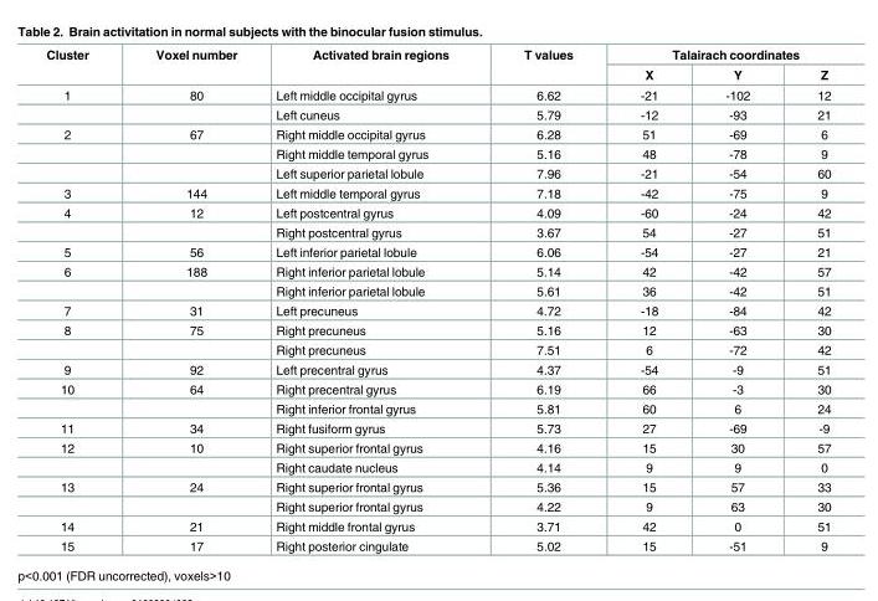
<table><thead><tr><td rowspan="2">Cluster</td><td rowspan="2">Voxel number</td><td rowspan="2">Activated brain regions</td><td rowspan="2">T values</td><td colspan="3">Talairach coordinates</td></tr><tr><td>X</td><td>Y</td><td>Z</td></tr></thead><tbody><tr><td rowspan="2">1</td><td>80</td><td>Left middle occipital gyrus</td><td>6.62</td><td>-21</td><td>-102</td><td>12</td></tr><tr><td></td><td>Left cuneus</td><td>5.79</td><td>-12</td><td>-93</td><td>21</td></tr><tr><td rowspan="3">2</td><td>67</td><td>Right middle occipital gyrus</td><td>6.28</td><td>51</td><td>-69</td><td>6</td></tr><tr><td></td><td>Right middle temporal gyrus</td><td>5.16</td><td>48</td><td>-78</td><td>9</td></tr><tr><td></td><td>Left superior parietal lobule</td><td>7.96</td><td>-21</td><td>-54</td><td>60</td></tr><tr><td>3</td><td>144</td><td>Left middle temporal gyrus</td><td>7.18</td><td>-42</td><td>-75</td><td>9</td></tr><tr><td rowspan="2">4</td><td>12</td><td>Left postcentral gyrus</td><td>4.09</td><td>-60</td><td>-24</td><td>42</td></tr><tr><td></td><td>Right postcentral gyrus</td><td>3.67</td><td>54</td><td>-27</td><td>51</td></tr><tr><td>5</td><td>56</td><td>Left inferior parietal lobule</td><td>6.06</td><td>-54</td><td>-27</td><td>21</td></tr><tr><td rowspan="2">6</td><td>188</td><td>Right inferior parietal lobule</td><td>5.14</td><td>42</td><td>-42</td><td>57</td></tr><tr><td></td><td>Right inferior parietal lobule</td><td>5.61</td><td>36</td><td>-42</td><td>51</td></tr><tr><td>7</td><td>31</td><td>Left precuneus</td><td>4.72</td><td>-18</td><td>-84</td><td>42</td></tr><tr><td rowspan="2">8</td><td>75</td><td>Right precuneus</td><td>5.16</td><td>12</td><td>-63</td><td>30</td></tr><tr><td></td><td>Right precuneus</td><td>7.51</td><td>6</td><td>-72</td><td>42</td></tr><tr><td>9</td><td>92</td><td>Left precentral gyrus</td><td>4.37</td><td>-54</td><td>-9</td><td>51</td></tr><tr><td rowspan="2">10</td><td>64</td><td>Right precentral gyrus</td><td>6.19</td><td>66</td><td>-3</td><td>30</td></tr><tr><td></td><td>Right inferior frontal gyrus</td><td>5.81</td><td>60</td><td>6</td><td>24</td></tr><tr><td>11</td><td>34</td><td>Right fusiform gyrus</td><td>5.73</td><td>27</td><td>-69</td><td>-9</td></tr><tr><td rowspan="2">12</td><td>10</td><td>Right superior frontal gyrus</td><td>4.16</td><td>15</td><td>30</td><td>57</td></tr><tr><td></td><td>Right caudate nucleus</td><td>4.14</td><td>9</td><td>9</td><td>0</td></tr><tr><td rowspan="2">13</td><td>24</td><td>Right superior frontal gyrus</td><td>5.36</td><td>15</td><td>57</td><td>33</td></tr><tr><td></td><td>Right superior frontal gyrus</td><td>4.22</td><td>9</td><td>63</td><td>30</td></tr><tr><td>14</td><td>21</td><td>Right middle frontal gyrus</td><td>3.71</td><td>42</td><td>0</td><td>51</td></tr><tr><td>15</td><td>17</td><td>Right posterior cingulate</td><td>5.02</td><td>15</td><td>-51</td><td>9</td></tr></tbody></table>